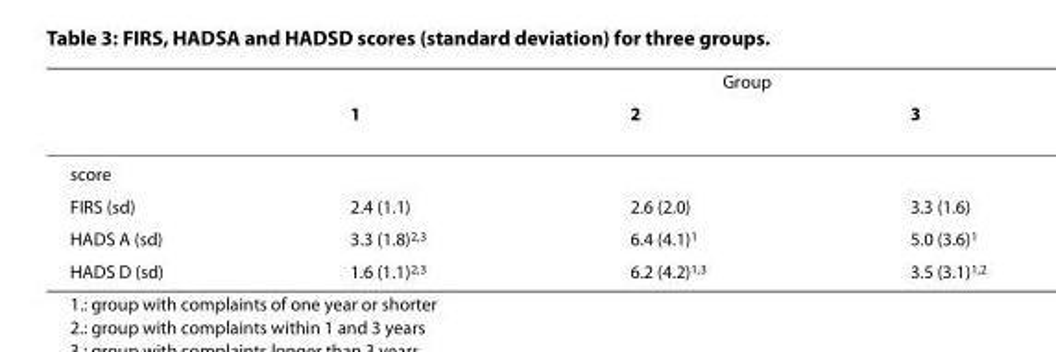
<table><thead><tr><td rowspan="2"></td><td colspan="3">Group</td></tr><tr><td>1</td><td>2</td><td>3</td></tr></thead><tbody><tr><td colspan="4">score</td></tr><tr><td>FIRS (sd)</td><td>2.4 (1.1)</td><td>2.6 (2.0)</td><td>3.3 (1.6)</td></tr><tr><td>HADS A (sd)</td><td>3.3 (1.8)<sup>2,3</sup></td><td>6.4 (4.1)<sup>1</sup></td><td>5.0 (3.6)<sup>1</sup></td></tr><tr><td>HADS D (sd)</td><td>1.6 (1.1)<sup>2,3</sup></td><td>6.2 (4.2)<sup>1,3</sup></td><td>3.5 (3.1)<sup>1,2</sup></td></tr></tbody></table>